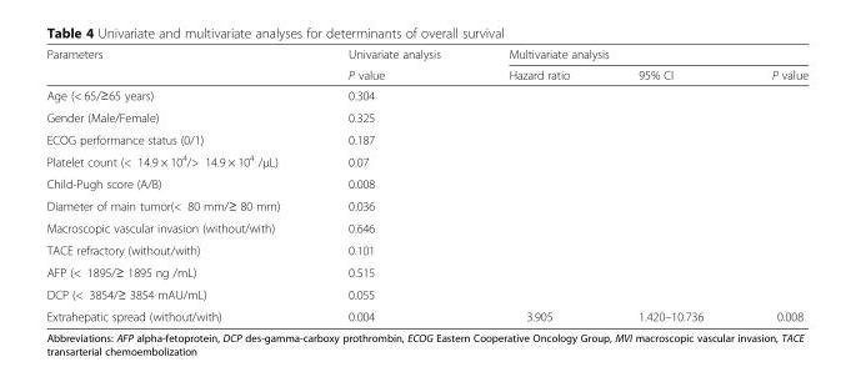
<table><thead><tr><td rowspan="2">Parameters</td><td rowspan="2">Univariate analysis P value</td><td colspan="3">Multivariate analysis</td></tr><tr><td>Hazard ratio</td><td>95% CI</td><td>P value</td></tr></thead><tbody><tr><td>Age (&lt; 65/≥65 years)</td><td>0.304</td><td></td><td></td><td></td></tr><tr><td>Gender (Male/Female)</td><td>0.325</td><td></td><td></td><td></td></tr><tr><td>ECOG performance status (0/1)</td><td>0.187</td><td></td><td></td><td></td></tr><tr><td>Platelet count (&lt; 14.9 × 10<sup>4</sup>/&gt; 14.9 × 10<sup>4</sup> /μL)</td><td>0.07</td><td></td><td></td><td></td></tr><tr><td>Child-Pugh score (A/B)</td><td>0.008</td><td></td><td></td><td></td></tr><tr><td>Diameter of main tumor(&lt; 80 mm/≥ 80 mm)</td><td>0.036</td><td></td><td></td><td></td></tr><tr><td>Macroscopic vascular invasion (without/with)</td><td>0.646</td><td></td><td></td><td></td></tr><tr><td>TACE refractory (without/with)</td><td>0.101</td><td></td><td></td><td></td></tr><tr><td>AFP (&lt; 1895/≥ 1895 ng /mL)</td><td>0.515</td><td></td><td></td><td></td></tr><tr><td>DCP (&lt; 3854/≥ 3854 mAU/mL)</td><td>0.055</td><td></td><td></td><td></td></tr><tr><td>Extrahepatic spread (without/with)</td><td>0.004</td><td>3.905</td><td>1.420–10.736</td><td>0.008</td></tr></tbody></table>